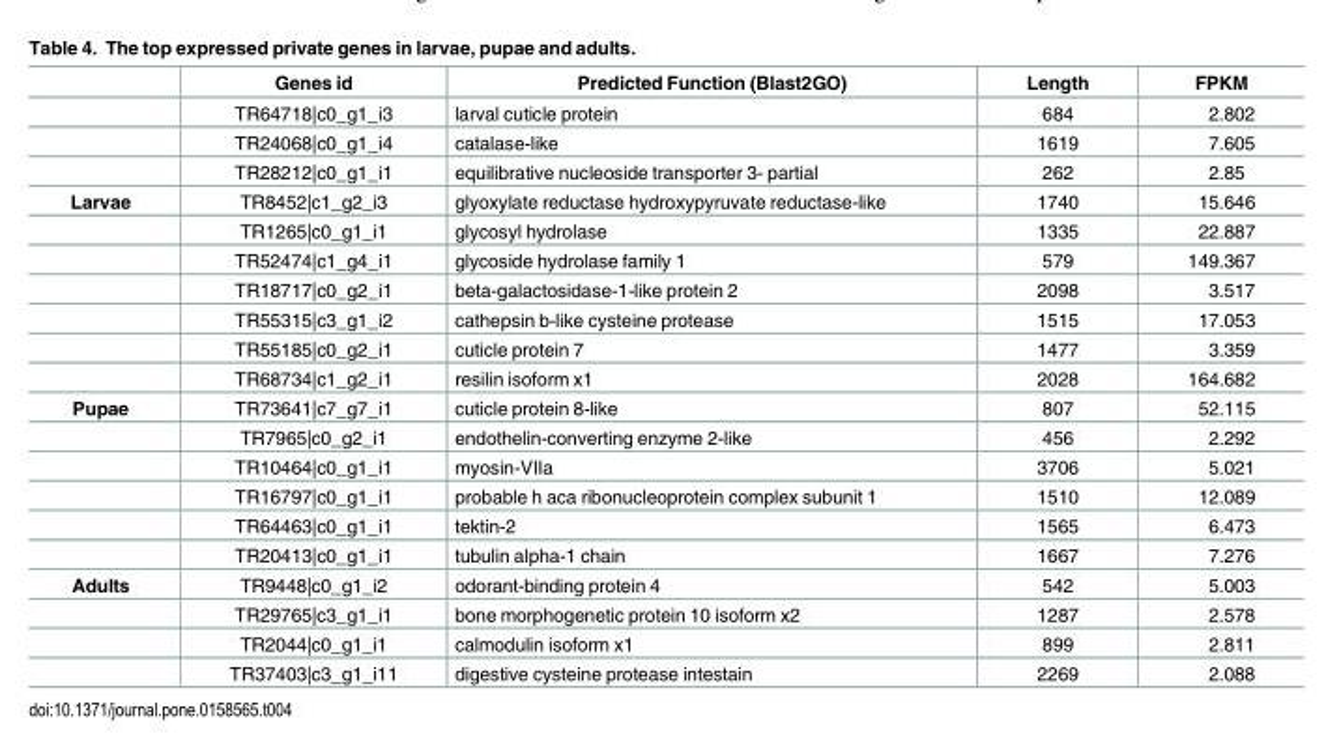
<table><thead><tr><td></td><td>Genes id</td><td>Predicted Function (Blast2GO)</td><td>Length</td><td>FPKM</td></tr></thead><tbody><tr><td></td><td>TR64718|c0_g1_i3</td><td>larval cuticle protein</td><td>684</td><td>2.802</td></tr><tr><td></td><td>TR24068|c0_g1_i4</td><td>catalase-like</td><td>1619</td><td>7.605</td></tr><tr><td></td><td>TR28212|c0_g1_i1</td><td>equilibrative nucleoside transporter 3- partial</td><td>262</td><td>2.85</td></tr><tr><td rowspan="7">Larvae</td><td>TR8452|c1_g2_i3</td><td>glyoxylate reductase hydroxypyruvate reductase-like</td><td>1740</td><td>15.646</td></tr><tr><td>TR1265|c0_g1_i1</td><td>glycosyl hydrolase</td><td>1335</td><td>22.887</td></tr><tr><td>TR52474|c1_g4_i1</td><td>glycoside hydrolase family 1</td><td>579</td><td>149.367</td></tr><tr><td>TR18717|c0_g2_i1</td><td>beta-galactosidase-1-like protein 2</td><td>2098</td><td>3.517</td></tr><tr><td>TR55315|c3_g1_i2</td><td>cathepsin b-like cysteine protease</td><td>1515</td><td>17.053</td></tr><tr><td>TR55185|c0_g2_i1</td><td>cuticle protein 7</td><td>1477</td><td>3.359</td></tr><tr><td>TR68734|c1_g2_i1</td><td>resilin isoform x1</td><td>2028</td><td>164.682</td></tr><tr><td rowspan="6">Pupae</td><td>TR73641|c7_g7_i1</td><td>cuticle protein 8-like</td><td>807</td><td>52.115</td></tr><tr><td>TR7965|c0_g2_i1</td><td>endothelin-converting enzyme 2-like</td><td>456</td><td>2.292</td></tr><tr><td>TR10464|c0_g1_i1</td><td>myosin-VIIa</td><td>3706</td><td>5.021</td></tr><tr><td>TR16797|c0_g1_i1</td><td>probable h aca ribonucleoprotein complex subunit 1</td><td>1510</td><td>12.089</td></tr><tr><td>TR64463|c0_g1_i1</td><td>tektin-2</td><td>1565</td><td>6.473</td></tr><tr><td>TR20413|c0_g1_i1</td><td>tubulin alpha-1 chain</td><td>1667</td><td>7.276</td></tr><tr><td rowspan="4">Adults</td><td>TR9448|c0_g1_i2</td><td>odorant-binding protein 4</td><td>542</td><td>5.003</td></tr><tr><td>TR29765|c3_g1_i1</td><td>bone morphogenetic protein 10 isoform x2</td><td>1287</td><td>2.578</td></tr><tr><td>TR2044|c0_g1_i1</td><td>calmodulin isoform x1</td><td>899</td><td>2.811</td></tr><tr><td>TR37403|c3_g1_i11</td><td>digestive cysteine protease intestain</td><td>2269</td><td>2.088</td></tr></tbody></table>